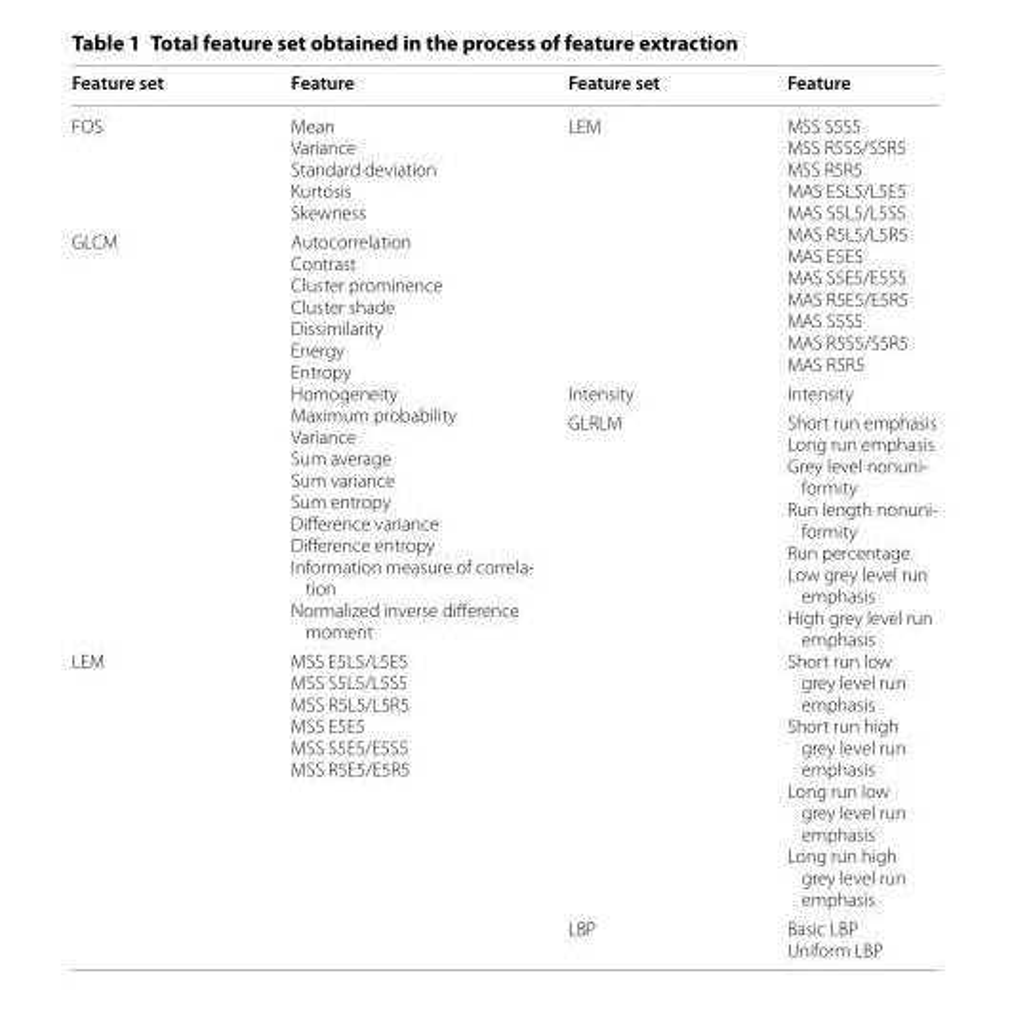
<table><thead><tr><td>Feature set</td><td>Feature</td><td>Feature set</td><td>Feature</td></tr></thead><tbody><tr><td>FOS</td><td>Mean Variance Standard deviation Kurtosis Skewness</td><td rowspan="2">LEM</td><td rowspan="2">MSS S5S5 MSS R5S5/S5R5 MSS R5R5 MAS E5L5/L5E5 MAS S5L5/L5S5 MAS R5L5/L5R5 MAS E5E5 MAS S5E5/E5S5 MAS R5E5/E5R5 MAS S5S5 MAS R5S5/S5R5 MAS R5R5</td></tr><tr><td rowspan="3">GLCM</td><td rowspan="3">Autocorrelation Contrast Cluster prominence Cluster shade Dissimilarity Energy Entropy Homogeneity Maximum probability Variance Sum average Sum variance Sum entropy Difference variance Difference entropy Information measure of correla- tion Normalized inverse difference moment</td></tr><tr><td>Intensity</td><td>Intensity</td></tr><tr><td rowspan="2">GLRLM</td><td rowspan="2">Short run emphasis Long run emphasis Grey level nonuni- formity Run length nonuni- formity Run percentage Low grey level run emphasis High grey level run emphasis Short run low grey level run emphasis Short run high grey level run emphasis Long run low grey level run emphasis Long run high grey level run emphasis</td></tr><tr><td rowspan="2">LEM</td><td rowspan="2">MSS E5L5/L5E5 MSS S5L5/L5S5 MSS R5L5/L5R5 MSS E5E5 MSS S5E5/E5S5 MSS R5E5/E5R5</td></tr><tr><td>LBP</td><td>Basic LBP Uniform LBP</td></tr></tbody></table>